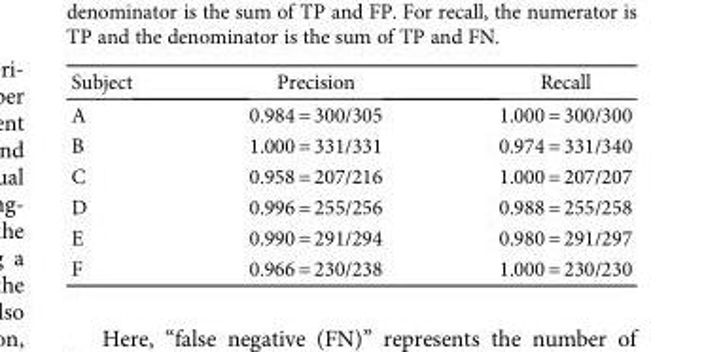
<table><thead><tr><td>Subject</td><td>Precision</td><td>Recall</td></tr></thead><tbody><tr><td>A</td><td>0.984 = 300/305</td><td>1.000 = 300/300</td></tr><tr><td>B</td><td>1.000 = 331/331</td><td>0.974 = 331/340</td></tr><tr><td>C</td><td>0.958 = 207/216</td><td>1.000 = 207/207</td></tr><tr><td>D</td><td>0.996 = 255/256</td><td>0.988 = 255/258</td></tr><tr><td>E</td><td>0.990 = 291/294</td><td>0.980 = 291/297</td></tr><tr><td>F</td><td>0.966 = 230/238</td><td>1.000 = 230/230</td></tr></tbody></table>